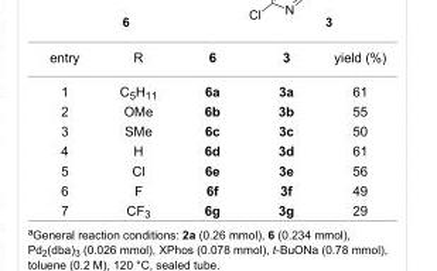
<table><tbody><tr><td>entry</td><td>R</td><td>6</td><td>3</td><td>yield (%)</td></tr><tr><td>1</td><td>C<sub>5</sub>H<sub>11</sub></td><td>6a</td><td>3a</td><td>61</td></tr><tr><td>2</td><td>OMe</td><td>6b</td><td>3b</td><td>55</td></tr><tr><td>3</td><td>SMe</td><td>6c</td><td>3c</td><td>50</td></tr><tr><td>4</td><td>H</td><td>6d</td><td>3d</td><td>61</td></tr><tr><td>5</td><td>Cl</td><td>6e</td><td>3e</td><td>56</td></tr><tr><td>6</td><td>F</td><td>6f</td><td>3f</td><td>49</td></tr><tr><td>7</td><td>CF<sub>3</sub></td><td>6g</td><td>3g</td><td>29</td></tr></tbody></table>